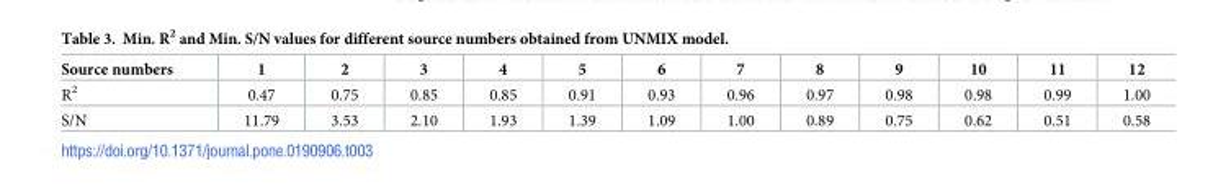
<table><thead><tr><td>Source numbers</td><td>1</td><td>2</td><td>3</td><td>4</td><td>5</td><td>6</td><td>7</td><td>8</td><td>9</td><td>10</td><td>11</td><td>12</td></tr></thead><tbody><tr><td>R<sup>2</sup></td><td>0.47</td><td>0.75</td><td>0.85</td><td>0.85</td><td>0.91</td><td>0.93</td><td>0.96</td><td>0.97</td><td>0.98</td><td>0.98</td><td>0.99</td><td>1.00</td></tr><tr><td>S/N</td><td>11.79</td><td>3.53</td><td>2.10</td><td>1.93</td><td>1.39</td><td>1.09</td><td>1.00</td><td>0.89</td><td>0.75</td><td>0.62</td><td>0.51</td><td>0.58</td></tr></tbody></table>